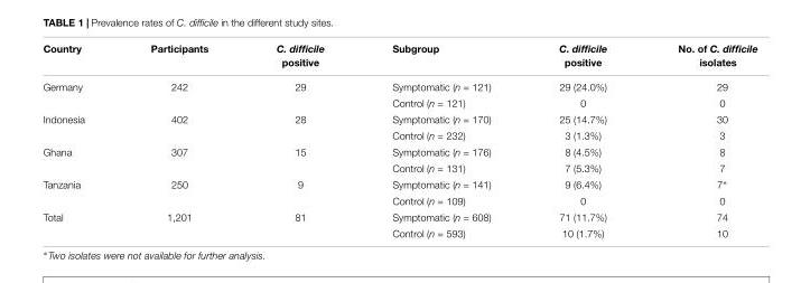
<table><thead><tr><td>Country</td><td>Participants</td><td>C. difficile positive</td><td>Subgroup</td><td>C. difficile positive</td><td>No. of C. difficile isolates</td></tr></thead><tbody><tr><td rowspan="2">Germany</td><td>242</td><td>29</td><td>Symptomatic (n = 121)</td><td>29 (24.0%)</td><td>29</td></tr><tr><td></td><td></td><td>Control (n = 121)</td><td>0</td><td>0</td></tr><tr><td rowspan="2">Indonesia</td><td>402</td><td>28</td><td>Symptomatic (n = 170)</td><td>25 (14.7%)</td><td>30</td></tr><tr><td></td><td></td><td>Control (n = 232)</td><td>3 (1.3%)</td><td>3</td></tr><tr><td rowspan="2">Ghana</td><td>307</td><td>15</td><td>Symptomatic (n = 176)</td><td>8 (4.5%)</td><td>8</td></tr><tr><td></td><td></td><td>Control (n = 131)</td><td>7 (5.3%)</td><td>7</td></tr><tr><td rowspan="2">Tanzania</td><td>250</td><td>9</td><td>Symptomatic (n = 141)</td><td>9 (6.4%)</td><td>7∗</td></tr><tr><td></td><td></td><td>Control (n = 109)</td><td>0</td><td>0</td></tr><tr><td rowspan="2">Total</td><td>1,201</td><td>81</td><td>Symptomatic (n = 608)</td><td>71 (11.7%)</td><td>74</td></tr><tr><td></td><td></td><td>Control (n = 593)</td><td>10 (1.7%)</td><td>10</td></tr></tbody></table>